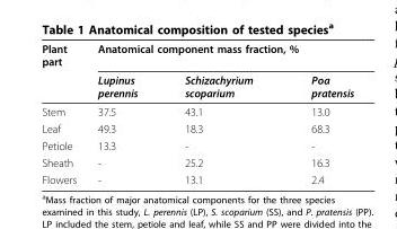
<table><thead><tr><td rowspan="2">Plant part</td><td colspan="3">Anatomical component mass fraction, %</td></tr><tr><td>Lupinus perennis</td><td>Schizachyrium scoparium</td><td>Poa pratensis</td></tr></thead><tbody><tr><td>Stem</td><td>37.5</td><td>43.1</td><td>13.0</td></tr><tr><td>Leaf</td><td>49.3</td><td>18.3</td><td>68.3</td></tr><tr><td>Petiole</td><td>13.3</td><td>-</td><td>-</td></tr><tr><td>Sheath</td><td>-</td><td>25.2</td><td>16.3</td></tr><tr><td>Flowers</td><td>-</td><td>13.1</td><td>2.4</td></tr></tbody></table>